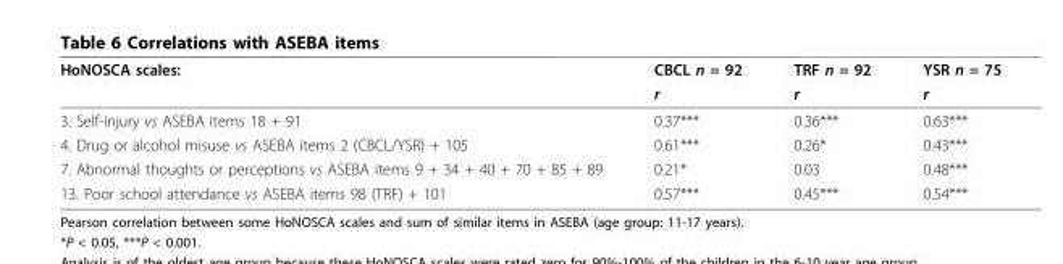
<table><thead><tr><td rowspan="2">HoNOSCA scales:</td><td rowspan="2">CBCL n = 92 r</td><td rowspan="2">TRF n = 92 r</td><td rowspan="2">YSR n = 75 r</td></tr><tr></tr></thead><tbody><tr><td>3. Self-injury vs ASEBA items 18 + 91</td><td>0.37***</td><td>0.36***</td><td>0.63***</td></tr><tr><td>4. Drug or alcohol misuse vs ASEBA items 2 (CBCL/YSR) + 105</td><td>0.61***</td><td>0.26*</td><td>0.43***</td></tr><tr><td>7. Abnormal thoughts or perceptions vs ASEBA items 9 + 34 + 40 + 70 + 85 + 89</td><td>0.21*</td><td>0.03</td><td>0.48***</td></tr><tr><td>13. Poor school attendance vs ASEBA items 98 (TRF) + 101</td><td>0.57***</td><td>0.45***</td><td>0.54***</td></tr></tbody></table>